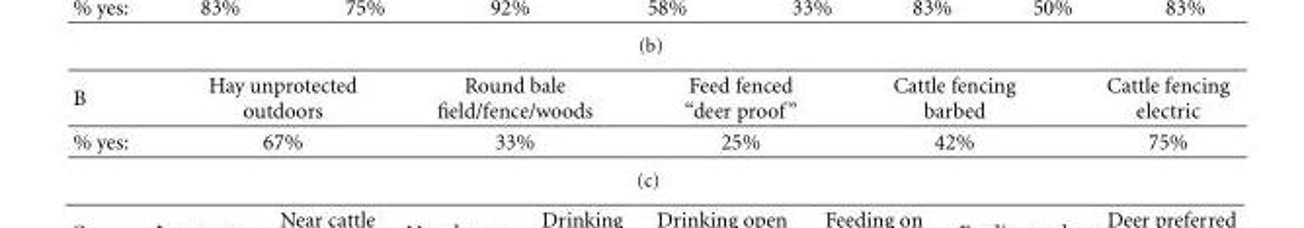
<table><thead><tr><td>B</td><td>Hay unprotected outdoors</td><td>Round bale field/fence/woods</td><td>Feed fenced “deer proof”</td><td>Cattle fencing barbed</td><td>Cattle fencing electric</td></tr></thead><tbody><tr><td>% yes:</td><td>67%</td><td>33%</td><td>25%</td><td>42%</td><td>75%</td></tr></tbody></table>